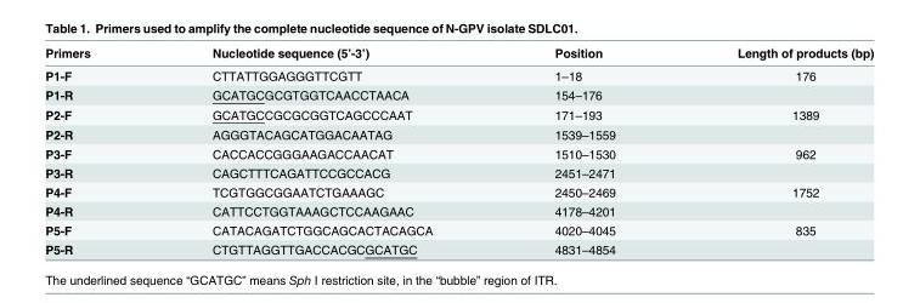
<table><thead><tr><td>Primers</td><td>Nucleotide sequence (5’-3’)</td><td>Position</td><td>Length of products (bp)</td></tr></thead><tbody><tr><td>P1-F</td><td>CTTATTGGAGGGTTCGTT</td><td>1–18</td><td>176</td></tr><tr><td>P1-R</td><td>GCATGCGCGTGGTCAACCTAACA</td><td>154–176</td><td></td></tr><tr><td>P2-F</td><td>GCATGCCGCGCGGTCAGCCCAAT</td><td>171–193</td><td>1389</td></tr><tr><td>P2-R</td><td>AGGGTACAGCATGGACAATAG</td><td>1539–1559</td><td></td></tr><tr><td>P3-F</td><td>CACCACCGGGAAGACCAACAT</td><td>1510–1530</td><td>962</td></tr><tr><td>P3-R</td><td>CAGCTTTCAGATTCCGCCACG</td><td>2451–2471</td><td></td></tr><tr><td>P4-F</td><td>TCGTGGCGGAATCTGAAAGC</td><td>2450–2469</td><td>1752</td></tr><tr><td>P4-R</td><td>CATTCCTGGTAAAGCTCCAAGAAC</td><td>4178–4201</td><td></td></tr><tr><td>P5-F</td><td>CATACAGATCTGGCAGCACTACAGCA</td><td>4020–4045</td><td>835</td></tr><tr><td>P5-R</td><td>CTGTTAGGTTGACCACGCGCATGC</td><td>4831–4854</td><td></td></tr></tbody></table>